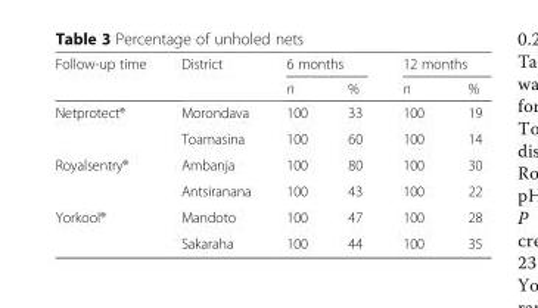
<table><thead><tr><td rowspan="2">Follow-up time</td><td rowspan="2">District</td><td colspan="2">6 months</td><td colspan="2">12 months</td></tr><tr><td>n</td><td>%</td><td>n</td><td>%</td></tr></thead><tbody><tr><td rowspan="2">Netprotect®</td><td>Morondava</td><td>100</td><td>33</td><td>100</td><td>19</td></tr><tr><td>Toamasina</td><td>100</td><td>60</td><td>100</td><td>14</td></tr><tr><td rowspan="2">Royalsentry®</td><td>Ambanja</td><td>100</td><td>80</td><td>100</td><td>30</td></tr><tr><td>Antsiranana</td><td>100</td><td>43</td><td>100</td><td>22</td></tr><tr><td rowspan="2">Yorkool®</td><td>Mandoto</td><td>100</td><td>47</td><td>100</td><td>28</td></tr><tr><td>Sakaraha</td><td>100</td><td>44</td><td>100</td><td>35</td></tr></tbody></table>